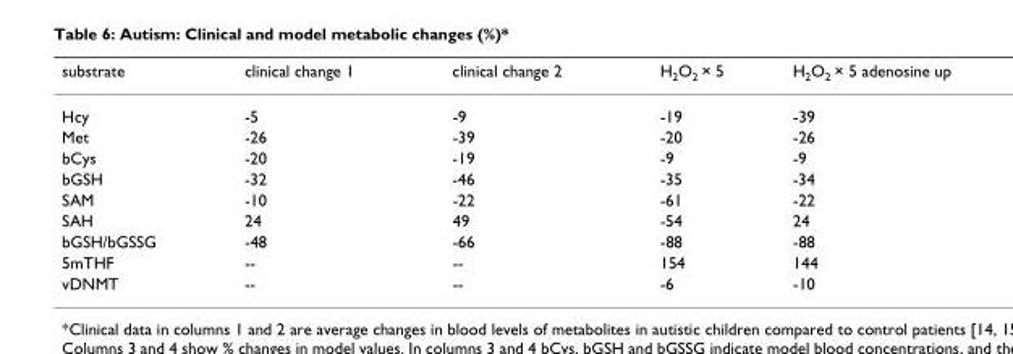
<table><thead><tr><td>substrate</td><td>clinical change 1</td><td>clinical change 2</td><td>H<sub>2</sub>O<sub>2</sub> × 5</td><td>H<sub>2</sub>O<sub>2</sub> × 5 adenosine up</td></tr></thead><tbody><tr><td>Hcy</td><td>-5</td><td>-9</td><td>-19</td><td>-39</td></tr><tr><td>Met</td><td>-26</td><td>-39</td><td>-20</td><td>-26</td></tr><tr><td>bCys</td><td>-20</td><td>-19</td><td>-9</td><td>-9</td></tr><tr><td>bGSH</td><td>-32</td><td>-46</td><td>-35</td><td>-34</td></tr><tr><td>SAM</td><td>-10</td><td>-22</td><td>-61</td><td>-22</td></tr><tr><td>SAH</td><td>24</td><td>49</td><td>-54</td><td>24</td></tr><tr><td>bGSH/bGSSG</td><td>-48</td><td>-66</td><td>-88</td><td>-88</td></tr><tr><td>5mTHF</td><td>--</td><td>--</td><td>154</td><td>144</td></tr><tr><td>vDNMT</td><td>--</td><td>--</td><td>-6</td><td>-10</td></tr></tbody></table>